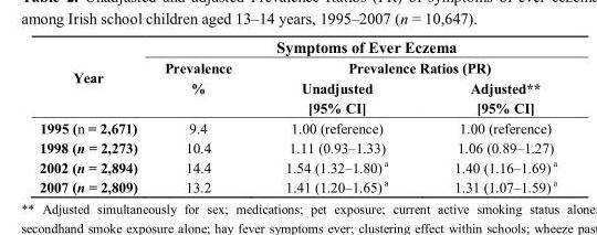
<table><thead><tr><td rowspan="3">Year</td><td colspan="3">Symptoms of Ever Eczema</td></tr><tr><td rowspan="2">Prevalence %</td><td colspan="2">Prevalence Ratios (PR)</td></tr><tr><td>Unadjusted [95% CI]</td><td>Adjusted** [95% CI]</td></tr></thead><tbody><tr><td>1995 (n = 2,671)</td><td>9.4</td><td>1.00 (reference)</td><td>1.00 (reference)</td></tr><tr><td>1998 (n = 2,273)</td><td>10.4</td><td>1.11 (0.93–1.33)</td><td>1.06 (0.89–1.27)</td></tr><tr><td>2002 (n = 2,894)</td><td>14.4</td><td>1.54 (1.32–1.80) <sup>a</sup></td><td>1.40 (1.16–1.69) <sup>a</sup></td></tr><tr><td>2007 (n = 2,809)</td><td>13.2</td><td>1.41 (1.20–1.65) <sup>a</sup></td><td>1.31 (1.07–1.59) <sup>a</sup></td></tr></tbody></table>